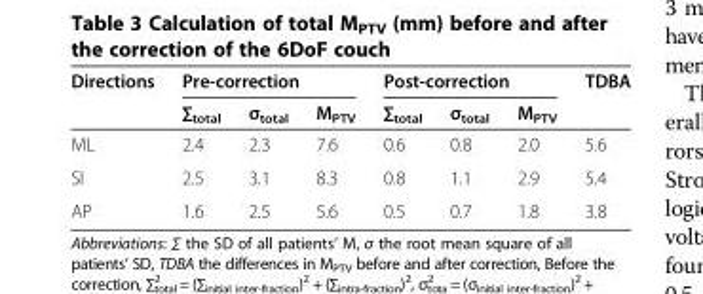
<table><thead><tr><td rowspan="2">Directions</td><td colspan="3">Pre-correction</td><td colspan="3">Post-correction</td><td rowspan="2">TDBA</td></tr><tr><td>∑<sub>total</sub></td><td>σ<sub>total</sub></td><td>M<sub>PTV</sub></td><td>∑<sub>total</sub></td><td>σ<sub>total</sub></td><td>M<sub>PTV</sub></td></tr></thead><tbody><tr><td>ML</td><td>2.4</td><td>2.3</td><td>7.6</td><td>0.6</td><td>0.8</td><td>2.0</td><td>5.6</td></tr><tr><td>SI</td><td>2.5</td><td>3.1</td><td>8.3</td><td>0.8</td><td>1.1</td><td>2.9</td><td>5.4</td></tr><tr><td>AP</td><td>1.6</td><td>2.5</td><td>5.6</td><td>0.5</td><td>0.7</td><td>1.8</td><td>3.8</td></tr></tbody></table>